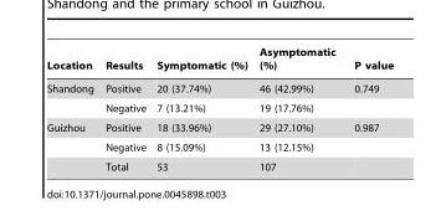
<table><thead><tr><td>Location</td><td>Results</td><td>Symptomatic (%)</td><td>Asymptomatic (%)</td><td>P value</td></tr></thead><tbody><tr><td rowspan="2">Shandong</td><td>Positive</td><td>20 (37.74%)</td><td>46 (42.99%)</td><td>0.749</td></tr><tr><td>Negative</td><td>7 (13.21%)</td><td>19 (17.76%)</td><td></td></tr><tr><td rowspan="3">Guizhou</td><td>Positive</td><td>18 (33.96%)</td><td>29 (27.10%)</td><td>0.987</td></tr><tr><td>Negative</td><td>8 (15.09%)</td><td>13 (12.15%)</td><td></td></tr><tr><td>Total</td><td>53</td><td>107</td><td></td></tr></tbody></table>